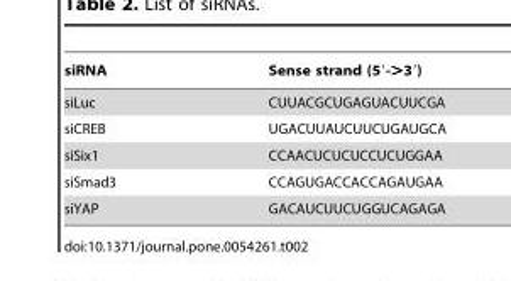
<table><thead><tr><td>siRNA</td><td>Sense strand (5′-&gt;3′)</td></tr></thead><tbody><tr><td>siLuc</td><td>CUUACGCUGAGUACUUCGA</td></tr><tr><td>siCREB</td><td>UGACUUAUCUUCUGAUGCA</td></tr><tr><td>siSix1</td><td>CCAACUCUCUCCUCUGGAA</td></tr><tr><td>siSmad3</td><td>CCAGUGACCACCAGAUGAA</td></tr><tr><td>siYAP</td><td>GACAUCUUCUGGUCAGAGA</td></tr></tbody></table>